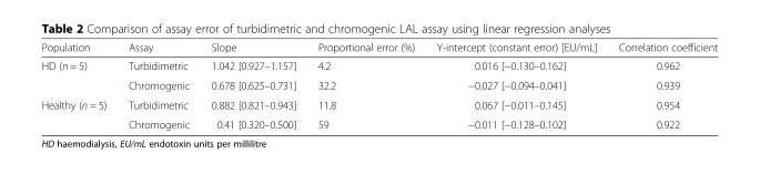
<table><thead><tr><td>Population</td><td>Assay</td><td>Slope</td><td>Proportional error (%)</td><td>Y-intercept (constant error) [EU/mL]</td><td>Correlation coefficient</td></tr></thead><tbody><tr><td rowspan="2">HD (n = 5)</td><td>Turbidimetric</td><td>1.042 [0.927–1.157]</td><td>4.2</td><td>0.016 [−0.130–0.162]</td><td>0.962</td></tr><tr><td>Chromogenic</td><td>0.678 [0.625–0.731]</td><td>32.2</td><td>−0.027 [−0.094–0.041]</td><td>0.939</td></tr><tr><td rowspan="2">Healthy (n = 5)</td><td>Turbidimetric</td><td>0.882 [0.821–0.943]</td><td>11.8</td><td>0.067 [−0.011–0.145]</td><td>0.954</td></tr><tr><td>Chromogenic</td><td>0.41 [0.320–0.500]</td><td>59</td><td>−0.011 [−0.128–0.102]</td><td>0.922</td></tr></tbody></table>